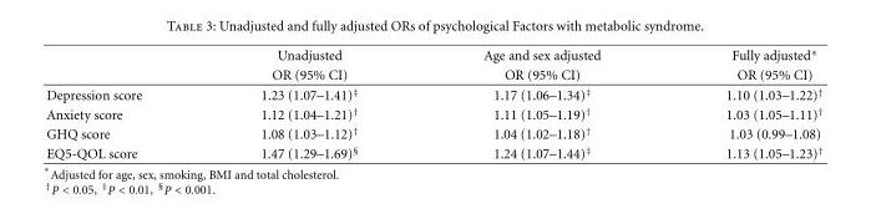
<table><thead><tr><td rowspan="2"></td><td rowspan="2">Unadjusted OR (95% CI)</td><td rowspan="2">Age and sex adjusted OR (95% CI)</td><td rowspan="2">Fully adjusted∗ OR (95% CI)</td></tr><tr></tr></thead><tbody><tr><td>Depression score</td><td>1.23 (1.07–1.41)<sup>‡</sup></td><td>1.17 (1.06–1.34)<sup>‡</sup></td><td>1.10 (1.03–1.22)<sup>†</sup></td></tr><tr><td>Anxiety score</td><td>1.12 (1.04–1.21)<sup>†</sup></td><td>1.11 (1.05–1.19)<sup>†</sup></td><td>1.03 (1.05–1.11)<sup>†</sup></td></tr><tr><td>GHQ score</td><td>1.08 (1.03–1.12)<sup>†</sup></td><td>1.04 (1.02–1.18)<sup>†</sup></td><td>1.03 (0.99–1.08)</td></tr><tr><td>EQ5-QOL score</td><td>1.47 (1.29–1.69)<sup>§</sup></td><td>1.24 (1.07–1.44)<sup>‡</sup></td><td>1.13 (1.05–1.23)<sup>†</sup></td></tr></tbody></table>